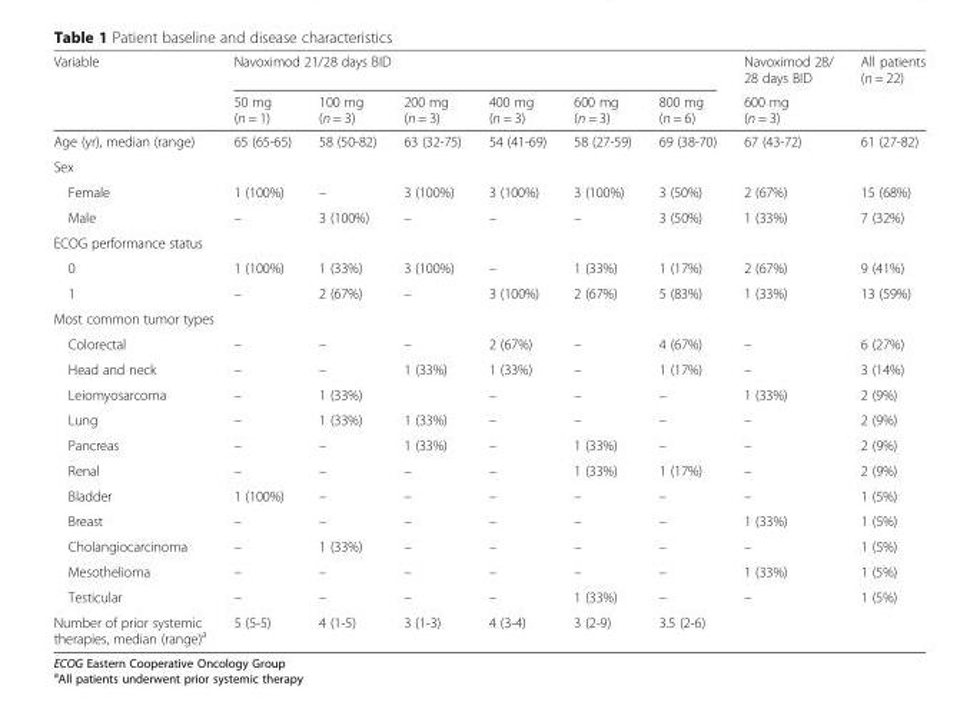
<table><thead><tr><td rowspan="2">Variable</td><td colspan="6">Navoximod 21/28 days BID</td><td rowspan="2">Navoximod 28/ 28 days BID 600 mg (n = 3)</td><td rowspan="2">All patients (n = 22)</td></tr><tr><td>50 mg (n = 1)</td><td>100 mg (n = 3)</td><td>200 mg (n = 3)</td><td>400 mg (n = 3)</td><td>600 mg (n = 3)</td><td>800 mg (n = 6)</td></tr></thead><tbody><tr><td>Age (yr), median (range)</td><td>65 (65-65)</td><td>58 (50-82)</td><td>63 (32-75)</td><td>54 (41-69)</td><td>58 (27-59)</td><td>69 (38-70)</td><td>67 (43-72)</td><td>61 (27-82)</td></tr><tr><td colspan="9">Sex</td></tr><tr><td>Female</td><td>1 (100%)</td><td>–</td><td>3 (100%)</td><td>3 (100%)</td><td>3 (100%)</td><td>3 (50%)</td><td>2 (67%)</td><td>15 (68%)</td></tr><tr><td>Male</td><td>–</td><td>3 (100%)</td><td>–</td><td>–</td><td>–</td><td>3 (50%)</td><td>1 (33%)</td><td>7 (32%)</td></tr><tr><td colspan="9">ECOG performance status</td></tr><tr><td>0</td><td>1 (100%)</td><td>1 (33%)</td><td>3 (100%)</td><td>–</td><td>1 (33%)</td><td>1 (17%)</td><td>2 (67%)</td><td>9 (41%)</td></tr><tr><td>1</td><td>–</td><td>2 (67%)</td><td>–</td><td>3 (100%)</td><td>2 (67%)</td><td>5 (83%)</td><td>1 (33%)</td><td>13 (59%)</td></tr><tr><td colspan="9">Most common tumor types</td></tr><tr><td>Colorectal</td><td>–</td><td>–</td><td>–</td><td>2 (67%)</td><td>–</td><td>4 (67%)</td><td>–</td><td>6 (27%)</td></tr><tr><td>Head and neck</td><td>–</td><td>–</td><td>1 (33%)</td><td>1 (33%)</td><td>–</td><td>1 (17%)</td><td>–</td><td>3 (14%)</td></tr><tr><td>Leiomyosarcoma</td><td>–</td><td>1 (33%)</td><td></td><td>–</td><td>–</td><td>–</td><td>1 (33%)</td><td>2 (9%)</td></tr><tr><td>Lung</td><td>–</td><td>1 (33%)</td><td>1 (33%)</td><td>–</td><td>–</td><td>–</td><td>–</td><td>2 (9%)</td></tr><tr><td>Pancreas</td><td>–</td><td>–</td><td>1 (33%)</td><td>–</td><td>1 (33%)</td><td>–</td><td>–</td><td>2 (9%)</td></tr><tr><td>Renal</td><td>–</td><td>–</td><td>–</td><td>–</td><td>1 (33%)</td><td>1 (17%)</td><td>–</td><td>2 (9%)</td></tr><tr><td>Bladder</td><td>1 (100%)</td><td>–</td><td>–</td><td>–</td><td>–</td><td>–</td><td>–</td><td>1 (5%)</td></tr><tr><td>Breast</td><td>–</td><td>–</td><td>–</td><td>–</td><td>–</td><td>–</td><td>1 (33%)</td><td>1 (5%)</td></tr><tr><td>Cholangiocarcinoma</td><td>–</td><td>1 (33%)</td><td>–</td><td>–</td><td>–</td><td>–</td><td>–</td><td>1 (5%)</td></tr><tr><td>Mesothelioma</td><td>–</td><td>–</td><td>–</td><td>–</td><td>–</td><td>–</td><td>1 (33%)</td><td>1 (5%)</td></tr><tr><td>Testicular</td><td>–</td><td>–</td><td>–</td><td>–</td><td>1 (33%)</td><td>–</td><td>–</td><td>1 (5%)</td></tr><tr><td>Number of prior systemic therapies, median (range)<sup>a</sup></td><td>5 (5-5)</td><td>4 (1-5)</td><td>3 (1-3)</td><td>4 (3-4)</td><td>3 (2-9)</td><td>3.5 (2-6)</td><td></td><td></td></tr></tbody></table>